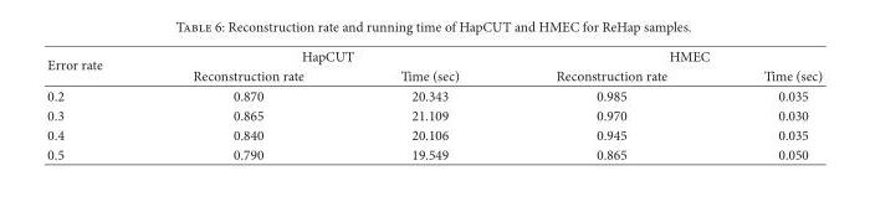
<table><thead><tr><td rowspan="2">Error rate</td><td colspan="2">HapCUT</td><td colspan="2">HMEC</td></tr><tr><td>Reconstruction rate</td><td>Time (sec)</td><td>Reconstruction rate</td><td>Time (sec)</td></tr></thead><tbody><tr><td>0.2</td><td>0.870</td><td>20.343</td><td>0.985</td><td>0.035</td></tr><tr><td>0.3</td><td>0.865</td><td>21.109</td><td>0.970</td><td>0.030</td></tr><tr><td>0.4</td><td>0.840</td><td>20.106</td><td>0.945</td><td>0.035</td></tr><tr><td>0.5</td><td>0.790</td><td>19.549</td><td>0.865</td><td>0.050</td></tr></tbody></table>